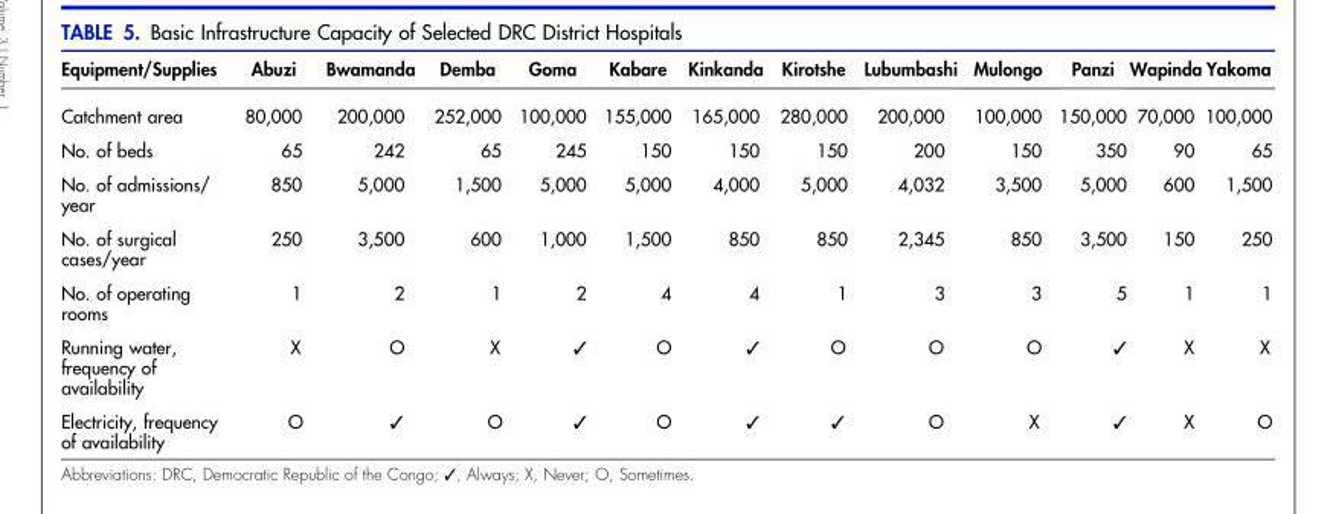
<table><thead><tr><td>Equipment/Supplies</td><td>Abuzi</td><td>Bwamanda</td><td>Demba</td><td>Goma</td><td>Kabare</td><td>Kinkanda</td><td>Kirotshe</td><td>Lubumbashi</td><td>Mulongo</td><td>Panzi</td><td>Wapinda</td><td>Yakoma</td></tr></thead><tbody><tr><td>Catchment area</td><td>80,000</td><td>200,000</td><td>252,000</td><td>100,000</td><td>155,000</td><td>165,000</td><td>280,000</td><td>200,000</td><td>100,000</td><td>150,000</td><td>70,000</td><td>100,000</td></tr><tr><td>No. of beds</td><td>65</td><td>242</td><td>65</td><td>245</td><td>150</td><td>150</td><td>150</td><td>200</td><td>150</td><td>350</td><td>90</td><td>65</td></tr><tr><td>No. of admissions/ year</td><td>850</td><td>5,000</td><td>1,500</td><td>5,000</td><td>5,000</td><td>4,000</td><td>5,000</td><td>4,032</td><td>3,500</td><td>5,000</td><td>600</td><td>1,500</td></tr><tr><td>No. of surgical cases/year</td><td>250</td><td>3,500</td><td>600</td><td>1,000</td><td>1,500</td><td>850</td><td>850</td><td>2,345</td><td>850</td><td>3,500</td><td>150</td><td>250</td></tr><tr><td>No. of operating rooms</td><td>1</td><td>2</td><td>1</td><td>2</td><td>4</td><td>4</td><td>1</td><td>3</td><td>3</td><td>5</td><td>1</td><td>1</td></tr><tr><td>Running water, frequency of availability</td><td>X</td><td>O</td><td>X</td><td>✓</td><td>O</td><td>✓</td><td>O</td><td>O</td><td>O</td><td>✓</td><td>X</td><td>X</td></tr><tr><td>Electricity, frequency of availability</td><td>O</td><td>✓</td><td>O</td><td>✓</td><td>O</td><td>✓</td><td>✓</td><td>O</td><td>X</td><td>✓</td><td>X</td><td>O</td></tr></tbody></table>